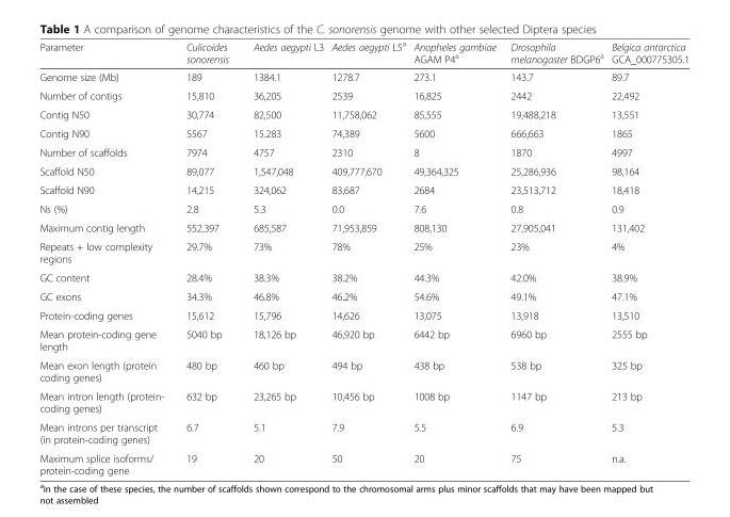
<table><thead><tr><td>Parameter</td><td>Culicoides sonorensis</td><td>Aedes aegypti L3</td><td>Aedes aegypti L5<sup>a</sup></td><td>Anopheles gambiae AGAM P4<sup>a</sup></td><td>Drosophila melanogaster BDGP6<sup>a</sup></td><td>Belgica antarctica GCA_000775305.1</td></tr></thead><tbody><tr><td>Genome size (Mb)</td><td>189</td><td>1384.1</td><td>1278.7</td><td>273.1</td><td>143.7</td><td>89.7</td></tr><tr><td>Number of contigs</td><td>15,810</td><td>36,205</td><td>2539</td><td>16,825</td><td>2442</td><td>22,492</td></tr><tr><td>Contig N50</td><td>30,774</td><td>82,500</td><td>11,758,062</td><td>85,555</td><td>19,488,218</td><td>13,551</td></tr><tr><td>Contig N90</td><td>5567</td><td>15.283</td><td>74,389</td><td>5600</td><td>666,663</td><td>1865</td></tr><tr><td>Number of scaffolds</td><td>7974</td><td>4757</td><td>2310</td><td>8</td><td>1870</td><td>4997</td></tr><tr><td>Scaffold N50</td><td>89,077</td><td>1,547,048</td><td>409,777,670</td><td>49,364,325</td><td>25,286,936</td><td>98,164</td></tr><tr><td>Scaffold N90</td><td>14,215</td><td>324,062</td><td>83,687</td><td>2684</td><td>23,513,712</td><td>18,418</td></tr><tr><td>Ns (%)</td><td>2.8</td><td>5.3</td><td>0.0</td><td>7.6</td><td>0.8</td><td>0.9</td></tr><tr><td>Maximum contig length</td><td>552,397</td><td>685,587</td><td>71,953,859</td><td>808,130</td><td>27,905,041</td><td>131,402</td></tr><tr><td>Repeats + low complexity regions</td><td>29.7%</td><td>73%</td><td>78%</td><td>25%</td><td>23%</td><td>4%</td></tr><tr><td>GC content</td><td>28.4%</td><td>38.3%</td><td>38.2%</td><td>44.3%</td><td>42.0%</td><td>38.9%</td></tr><tr><td>GC exons</td><td>34.3%</td><td>46.8%</td><td>46.2%</td><td>54.6%</td><td>49.1%</td><td>47.1%</td></tr><tr><td>Protein-coding genes</td><td>15,612</td><td>15,796</td><td>14,626</td><td>13,075</td><td>13,918</td><td>13,510</td></tr><tr><td>Mean protein-coding gene length</td><td>5040 bp</td><td>18,126 bp</td><td>46,920 bp</td><td>6442 bp</td><td>6960 bp</td><td>2555 bp</td></tr><tr><td>Mean exon length (protein coding genes)</td><td>480 bp</td><td>460 bp</td><td>494 bp</td><td>438 bp</td><td>538 bp</td><td>325 bp</td></tr><tr><td>Mean intron length (protein- coding genes)</td><td>632 bp</td><td>23,265 bp</td><td>10,456 bp</td><td>1008 bp</td><td>1147 bp</td><td>213 bp</td></tr><tr><td>Mean introns per transcript (in protein-coding genes)</td><td>6.7</td><td>5.1</td><td>7.9</td><td>5.5</td><td>6.9</td><td>5.3</td></tr><tr><td>Maximum splice isoforms/ protein-coding gene</td><td>19</td><td>20</td><td>50</td><td>20</td><td>75</td><td>n.a.</td></tr></tbody></table>